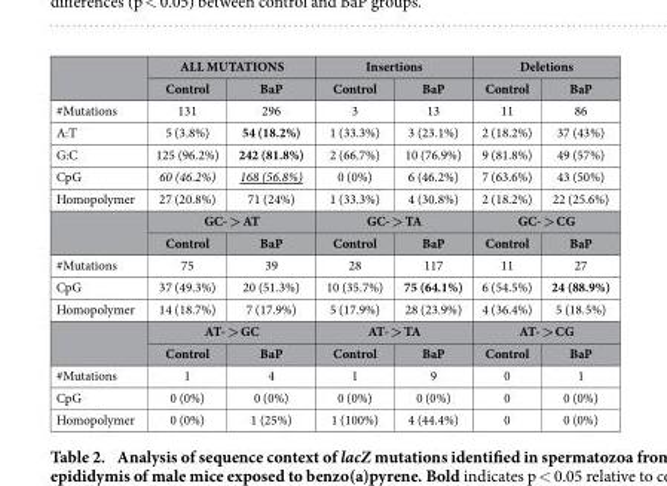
<table><thead><tr><td rowspan="2"></td><td colspan="2">ALL MUTATIONS</td><td colspan="2">Insertions</td><td colspan="2">Deletions</td></tr><tr><td>Control</td><td>BaP</td><td>Control</td><td>BaP</td><td>Control</td><td>BaP</td></tr></thead><tbody><tr><td>#Mutations</td><td>131</td><td>296</td><td>3</td><td>13</td><td>11</td><td>86</td></tr><tr><td>A:T</td><td>5 (3.8%)</td><td>54 (18.2%)</td><td>1 (33.3%)</td><td>3 (23.1%)</td><td>2 (18.2%)</td><td>37 (43%)</td></tr><tr><td>G:C</td><td>125 (96.2%)</td><td>242 (81.8%)</td><td>2 (66.7%)</td><td>10 (76.9%)</td><td>9 (81.8%)</td><td>49 (57%)</td></tr><tr><td>CpG</td><td>60 (46.2%)</td><td>168 (56.8%)</td><td>0 (0%)</td><td>6 (46.2%)</td><td>7 (63.6%)</td><td>43 (50%)</td></tr><tr><td rowspan="3">Homopolymer</td><td>27 (20.8%)</td><td>71 (24%)</td><td>1 (33.3%)</td><td>4 (30.8%)</td><td>2 (18.2%)</td><td>22 (25.6%)</td></tr><tr><td colspan="2">GC- &gt; AT</td><td colspan="2">GC- &gt; TA</td><td colspan="2">GC- &gt; CG</td></tr><tr><td>Control</td><td>BaP</td><td>Control</td><td>BaP</td><td>Control</td><td>BaP</td></tr><tr><td>#Mutations</td><td>75</td><td>39</td><td>28</td><td>117</td><td>11</td><td>27</td></tr><tr><td>CpG</td><td>37 (49.3%)</td><td>20 (51.3%)</td><td>10 (35.7%)</td><td>75 (64.1%)</td><td>6 (54.5%)</td><td>24 (88.9%)</td></tr><tr><td rowspan="3">Homopolymer</td><td>14 (18.7%)</td><td>7 (17.9%)</td><td>5 (17.9%)</td><td>28 (23.9%)</td><td>4 (36.4%)</td><td>5 (18.5%)</td></tr><tr><td colspan="2">AT- &gt; GC</td><td colspan="2">AT- &gt; TA</td><td colspan="2">AT- &gt; CG</td></tr><tr><td>Control</td><td>BaP</td><td>Control</td><td>BaP</td><td>Control</td><td>BaP</td></tr><tr><td>#Mutations</td><td>1</td><td>4</td><td>1</td><td>9</td><td>0</td><td>1</td></tr><tr><td>CpG</td><td>0 (0%)</td><td>0 (0%)</td><td>0 (0%)</td><td>0 (0%)</td><td>0</td><td>0 (0%)</td></tr><tr><td>Homopolymer</td><td>0 (0%)</td><td>1 (25%)</td><td>1 (100%)</td><td>4 (44.4%)</td><td>0</td><td>0 (0%)</td></tr></tbody></table>